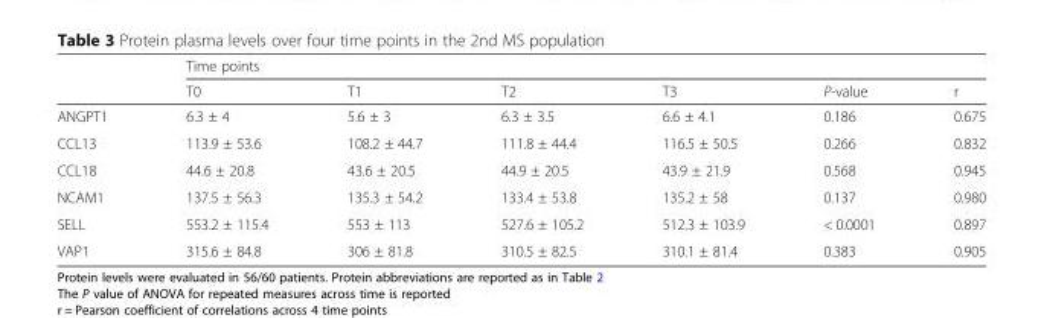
<table><thead><tr><td rowspan="2"></td><td colspan="6">Time points</td></tr><tr><td>T0</td><td>T1</td><td>T2</td><td>T3</td><td>P-value</td><td>r</td></tr></thead><tbody><tr><td>ANGPT1</td><td>6.3 ± 4</td><td>5.6 ± 3</td><td>6.3 ± 3.5</td><td>6.6 ± 4.1</td><td>0.186</td><td>0.675</td></tr><tr><td>CCL13</td><td>113.9 ± 53.6</td><td>108.2 ± 44.7</td><td>111.8 ± 44.4</td><td>116.5 ± 50.5</td><td>0.266</td><td>0.832</td></tr><tr><td>CCL18</td><td>44.6 ± 20.8</td><td>43.6 ± 20.5</td><td>44.9 ± 20.5</td><td>43.9 ± 21.9</td><td>0.568</td><td>0.945</td></tr><tr><td>NCAM1</td><td>137.5 ± 56.3</td><td>135.3 ± 54.2</td><td>133.4 ± 53.8</td><td>135.2 ± 58</td><td>0.137</td><td>0.980</td></tr><tr><td>SELL</td><td>553.2 ± 115.4</td><td>553 ± 113</td><td>527.6 ± 105.2</td><td>512.3 ± 103.9</td><td>&lt; 0.0001</td><td>0.897</td></tr><tr><td>VAP1</td><td>315.6 ± 84.8</td><td>306 ± 81.8</td><td>310.5 ± 82.5</td><td>310.1 ± 81.4</td><td>0.383</td><td>0.905</td></tr></tbody></table>